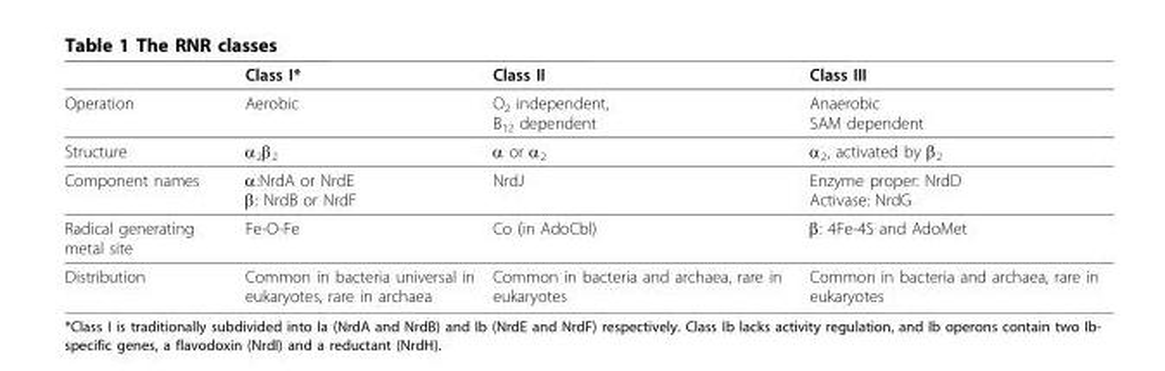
<table><thead><tr><td></td><td>Class I*</td><td>Class II</td><td>Class III</td></tr></thead><tbody><tr><td>Operation</td><td>Aerobic</td><td>O<sub>2</sub> independent, B<sub>12</sub> dependent</td><td>Anaerobic SAM dependent</td></tr><tr><td>Structure</td><td>α<sub>2</sub>β<sub>2</sub></td><td>α or α<sub>2</sub></td><td>α<sub>2</sub>, activated by β<sub>2</sub></td></tr><tr><td>Component names</td><td>α:NrdA or NrdE β: NrdB or NrdF</td><td>NrdJ</td><td>Enzyme proper: NrdD Activase: NrdG</td></tr><tr><td>Radical generating metal site</td><td>Fe-O-Fe</td><td>Co (in AdoCbl)</td><td>β: 4Fe-4S and AdoMet</td></tr><tr><td>Distribution</td><td>Common in bacteria universal in eukaryotes, rare in archaea</td><td>Common in bacteria and archaea, rare in eukaryotes</td><td>Common in bacteria and archaea, rare in eukaryotes</td></tr></tbody></table>